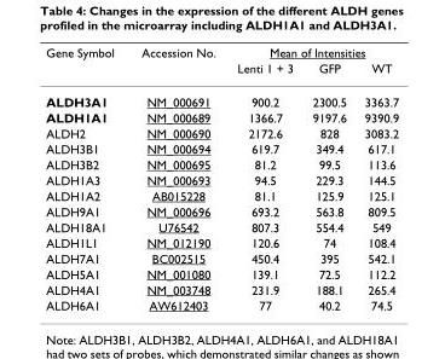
<table><thead><tr><td rowspan="2">Gene Symbol</td><td rowspan="2">Accession No.</td><td colspan="3">Mean of Intensities</td></tr><tr><td>Lenti 1 + 3</td><td>GFP</td><td>WT</td></tr></thead><tbody><tr><td>ALDH3A1</td><td>NM_000691</td><td>900.2</td><td>2300.5</td><td>3363.7</td></tr><tr><td>ALDH1A1</td><td>NM_000689</td><td>1366.7</td><td>9197.6</td><td>9390.9</td></tr><tr><td>ALDH2</td><td>NM_000690</td><td>2172.6</td><td>828</td><td>3083.2</td></tr><tr><td>ALDH3B1</td><td>NM_000694</td><td>619.7</td><td>349.4</td><td>617.1</td></tr><tr><td>ALDH3B2</td><td>NM_000695</td><td>81.2</td><td>99.5</td><td>113.6</td></tr><tr><td>ALDH1A3</td><td>NM_000693</td><td>94.5</td><td>229.3</td><td>144.5</td></tr><tr><td>ALDH1A2</td><td>AB015228</td><td>81.1</td><td>125.9</td><td>125.1</td></tr><tr><td>ALDH9A1</td><td>NM_000696</td><td>693.2</td><td>563.8</td><td>809.5</td></tr><tr><td>ALDH18A1</td><td>U76542</td><td>807.3</td><td>554.4</td><td>549</td></tr><tr><td>ALDH1L1</td><td>NM_012190</td><td>120.6</td><td>74</td><td>108.4</td></tr><tr><td>ALDH7A1</td><td>BC002515</td><td>450.4</td><td>395</td><td>542.1</td></tr><tr><td>ALDH5A1</td><td>NM_001080</td><td>139.1</td><td>72.5</td><td>112.2</td></tr><tr><td>ALDH4A1</td><td>NM_003748</td><td>231.9</td><td>188.1</td><td>265.4</td></tr><tr><td>ALDH6A1</td><td>AW612403</td><td>77</td><td>40.2</td><td>74.5</td></tr></tbody></table>